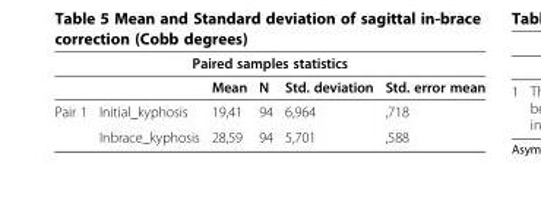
<table><thead><tr><td colspan="6">Paired samples statistics</td></tr><tr><td></td><td></td><td>Mean</td><td>N</td><td>Std. deviation</td><td>Std. error mean</td></tr></thead><tbody><tr><td rowspan="2">Pair 1</td><td>Initial_kyphosis</td><td>19,41</td><td>94</td><td>6,964</td><td>,718</td></tr><tr><td>Inbrace_kyphosis</td><td>28,59</td><td>94</td><td>5,701</td><td>,588</td></tr></tbody></table>